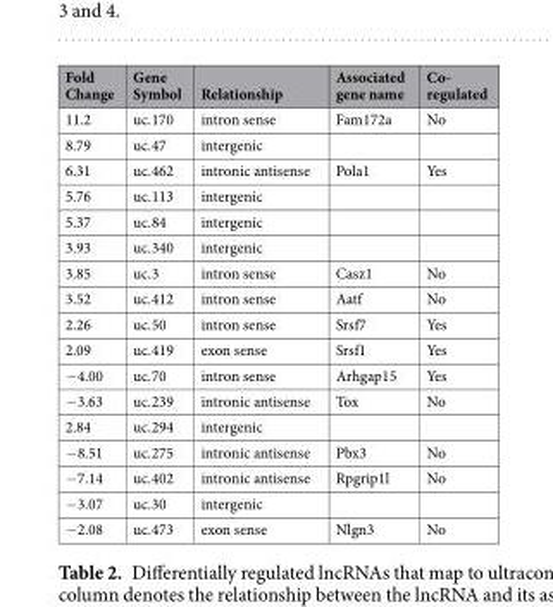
<table><thead><tr><td>Fold Change</td><td>Gene Symbol</td><td>Relationship</td><td>Associated gene name</td><td>Co- regulated</td></tr></thead><tbody><tr><td>11.2</td><td>uc.170</td><td>intron sense</td><td>Fam172a</td><td>No</td></tr><tr><td>8.79</td><td>uc.47</td><td>intergenic</td><td></td><td></td></tr><tr><td>6.31</td><td>uc.462</td><td>intronic antisense</td><td>Pola1</td><td>Yes</td></tr><tr><td>5.76</td><td>uc.113</td><td>intergenic</td><td></td><td></td></tr><tr><td>5.37</td><td>uc.84</td><td>intergenic</td><td></td><td></td></tr><tr><td>3.93</td><td>uc.340</td><td>intergenic</td><td></td><td></td></tr><tr><td>3.85</td><td>uc.3</td><td>intron sense</td><td>Casz1</td><td>No</td></tr><tr><td>3.52</td><td>uc.412</td><td>intron sense</td><td>Aatf</td><td>No</td></tr><tr><td>2.26</td><td>uc.50</td><td>intron sense</td><td>Srsf7</td><td>Yes</td></tr><tr><td>2.09</td><td>uc.419</td><td>exon sense</td><td>Srsf1</td><td>Yes</td></tr><tr><td>−4.00</td><td>uc.70</td><td>intron sense</td><td>Arhgap15</td><td>Yes</td></tr><tr><td>−3.63</td><td>uc.239</td><td>intronic antisense</td><td>Tox</td><td>No</td></tr><tr><td>2.84</td><td>uc.294</td><td>intergenic</td><td></td><td></td></tr><tr><td>−8.51</td><td>uc.275</td><td>intronic antisense</td><td>Pbx3</td><td>No</td></tr><tr><td>−7.14</td><td>uc.402</td><td>intronic antisense</td><td>Rpgrip1l</td><td>No</td></tr><tr><td>−3.07</td><td>uc.30</td><td>intergenic</td><td></td><td></td></tr><tr><td>−2.08</td><td>uc.473</td><td>exon sense</td><td>Nlgn3</td><td>No</td></tr></tbody></table>